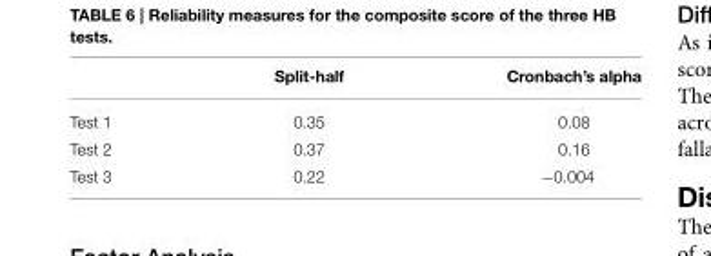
<table><thead><tr><td></td><td>Split-half</td><td>Cronbach’s alpha</td></tr></thead><tbody><tr><td>Test 1</td><td>0.35</td><td>0.08</td></tr><tr><td>Test 2</td><td>0.37</td><td>0.16</td></tr><tr><td>Test 3</td><td>0.22</td><td>−0.004</td></tr></tbody></table>